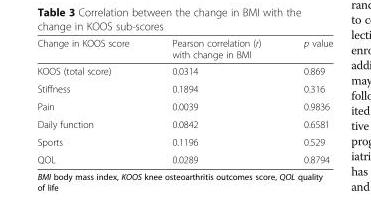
<table><thead><tr><td>Change in KOOS score</td><td>Pearson correlation (r) with change in BMI</td><td>p value</td></tr></thead><tbody><tr><td>KOOS (total score)</td><td>0.0314</td><td>0.869</td></tr><tr><td>Stiffness</td><td>0.1894</td><td>0.316</td></tr><tr><td>Pain</td><td>0.0039</td><td>0.9836</td></tr><tr><td>Daily function</td><td>0.0842</td><td>0.6581</td></tr><tr><td>Sports</td><td>0.1196</td><td>0.529</td></tr><tr><td>QOL</td><td>0.0289</td><td>0.8794</td></tr></tbody></table>